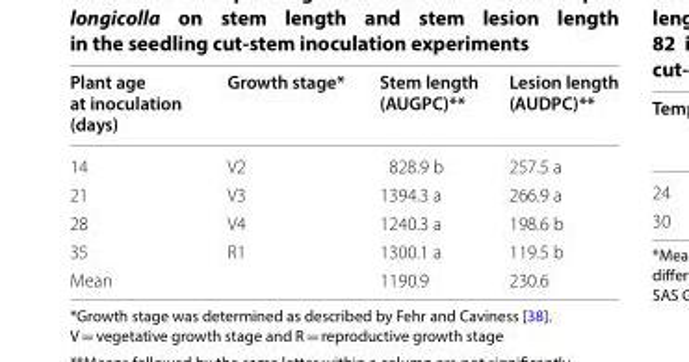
<table><thead><tr><td>Plant age at inoculation (days)</td><td>Growth stage*</td><td>Stem length (AUGPC)**</td><td>Lesion length (AUDPC)**</td></tr></thead><tbody><tr><td>14</td><td>V2</td><td>828.9 b</td><td>257.5 a</td></tr><tr><td>21</td><td>V3</td><td>1394.3 a</td><td>266.9 a</td></tr><tr><td>28</td><td>V4</td><td>1240.3 a</td><td>198.6 b</td></tr><tr><td>35</td><td>R1</td><td>1300.1 a</td><td>119.5 b</td></tr><tr><td>Mean</td><td></td><td>1190.9</td><td>230.6</td></tr></tbody></table>